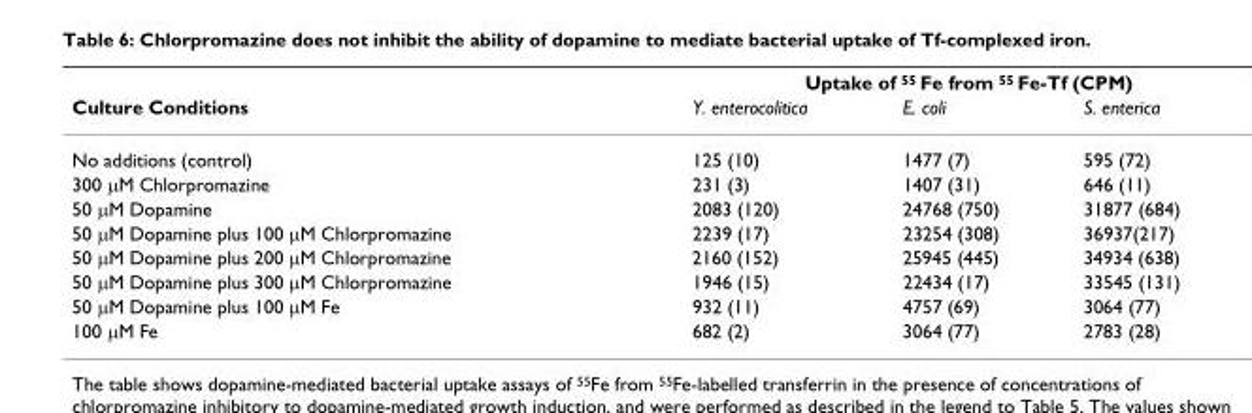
<table><thead><tr><td rowspan="2">Culture Conditions</td><td colspan="3">Uptake of 55 Fe from 55 Fe-Tf (CPM)</td></tr><tr><td>Y. enterocolitica</td><td>E. coli</td><td>S. enterica</td></tr></thead><tbody><tr><td>No additions (control)</td><td>125 (10)</td><td>1477 (7)</td><td>595 (72)</td></tr><tr><td>300 μM Chlorpromazine</td><td>231 (3)</td><td>1407 (31)</td><td>646 (11)</td></tr><tr><td>50 μM Dopamine</td><td>2083 (120)</td><td>24768 (750)</td><td>31877 (684)</td></tr><tr><td>50 μM Dopamine plus 100 μM Chlorpromazine</td><td>2239 (17)</td><td>23254 (308)</td><td>36937(217)</td></tr><tr><td>50 μM Dopamine plus 200 μM Chlorpromazine</td><td>2160 (152)</td><td>25945 (445)</td><td>34934 (638)</td></tr><tr><td>50 μM Dopamine plus 300 μM Chlorpromazine</td><td>1946 (15)</td><td>22434 (17)</td><td>33545 (131)</td></tr><tr><td>50 μM Dopamine plus 100 μM Fe</td><td>932 (11)</td><td>4757 (69)</td><td>3064 (77)</td></tr><tr><td>100 μM Fe</td><td>682 (2)</td><td>3064 (77)</td><td>2783 (28)</td></tr></tbody></table>